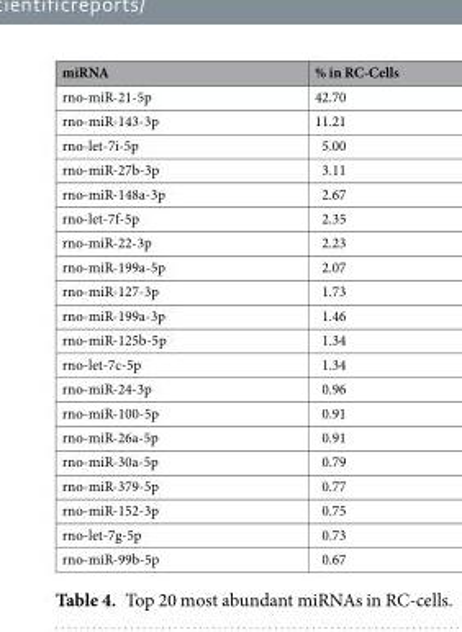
<table><thead><tr><td>miRNA</td><td>% in RC-Cells</td></tr></thead><tbody><tr><td>rno-miR-21-5p</td><td>42.70</td></tr><tr><td>rno-miR-143-3p</td><td>11.21</td></tr><tr><td>rno-let-7i-5p</td><td>5.00</td></tr><tr><td>rno-miR-27b-3p</td><td>3.11</td></tr><tr><td>rno-miR-148a-3p</td><td>2.67</td></tr><tr><td>rno-let-7f-5p</td><td>2.35</td></tr><tr><td>rno-miR-22-3p</td><td>2.23</td></tr><tr><td>rno-miR-199a-5p</td><td>2.07</td></tr><tr><td>rno-miR-127-3p</td><td>1.73</td></tr><tr><td>rno-miR-199a-3p</td><td>1.46</td></tr><tr><td>rno-miR-125b-5p</td><td>1.34</td></tr><tr><td>rno-let-7c-5p</td><td>1.34</td></tr><tr><td>rno-miR-24-3p</td><td>0.96</td></tr><tr><td>rno-miR-100-5p</td><td>0.91</td></tr><tr><td>rno-miR-26a-5p</td><td>0.91</td></tr><tr><td>rno-miR-30a-5p</td><td>0.79</td></tr><tr><td>rno-miR-379-5p</td><td>0.77</td></tr><tr><td>rno-miR-152-3p</td><td>0.75</td></tr><tr><td>rno-let-7g-5p</td><td>0.73</td></tr><tr><td>rno-miR-99b-5p</td><td>0.67</td></tr></tbody></table>